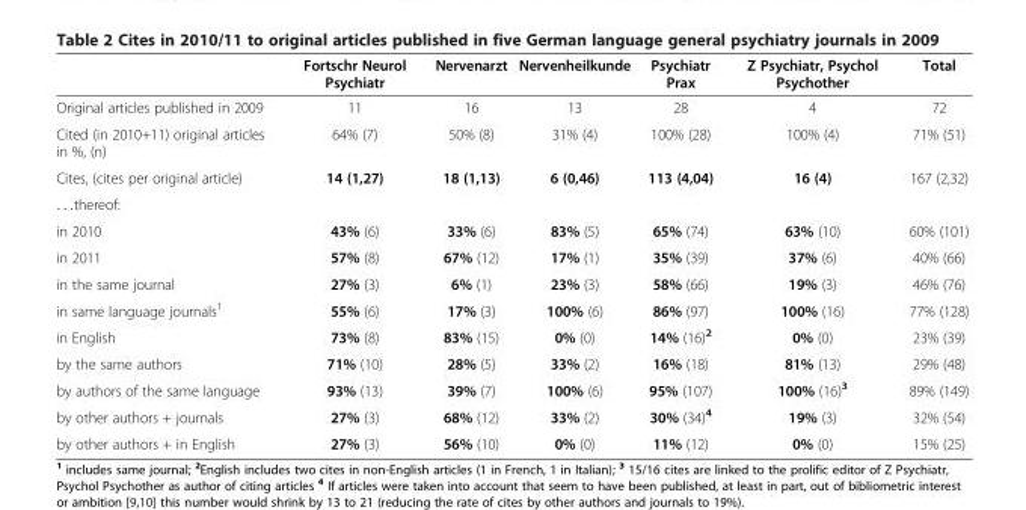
<table><thead><tr><td></td><td>Fortschr Neurol Psychiatr</td><td>Nervenarzt</td><td>Nervenheilkunde</td><td>Psychiatr Prax</td><td>Z Psychiatr, Psychol Psychother</td><td>Total</td></tr></thead><tbody><tr><td>Original articles published in 2009</td><td>11</td><td>16</td><td>13</td><td>28</td><td>4</td><td>72</td></tr><tr><td>Cited (in 2010+11) original articles in %, (n)</td><td>64% (7)</td><td>50% (8)</td><td>31% (4)</td><td>100% (28)</td><td>100% (4)</td><td>71% (51)</td></tr><tr><td>Cites, (cites per original article)</td><td>14 (1,27)</td><td>18 (1,13)</td><td>6 (0,46)</td><td>113 (4,04)</td><td>16 (4)</td><td>167 (2,32)</td></tr><tr><td colspan="7">. . .thereof:</td></tr><tr><td>in 2010</td><td>43% (6)</td><td>33% (6)</td><td>83% (5)</td><td>65% (74)</td><td>63% (10)</td><td>60% (101)</td></tr><tr><td>in 2011</td><td>57% (8)</td><td>67% (12)</td><td>17% (1)</td><td>35% (39)</td><td>37% (6)</td><td>40% (66)</td></tr><tr><td>in the same journal</td><td>27% (3)</td><td>6% (1)</td><td>23% (3)</td><td>58% (66)</td><td>19% (3)</td><td>46% (76)</td></tr><tr><td>in same language journals<sup>1</sup></td><td>55% (6)</td><td>17% (3)</td><td>100% (6)</td><td>86% (97)</td><td>100% (16)</td><td>77% (128)</td></tr><tr><td>in English</td><td>73% (8)</td><td>83% (15)</td><td>0% (0)</td><td>14% (16)<sup>2</sup></td><td>0% (0)</td><td>23% (39)</td></tr><tr><td>by the same authors</td><td>71% (10)</td><td>28% (5)</td><td>33% (2)</td><td>16% (18)</td><td>81% (13)</td><td>29% (48)</td></tr><tr><td>by authors of the same language</td><td>93% (13)</td><td>39% (7)</td><td>100% (6)</td><td>95% (107)</td><td>100% (16)<sup>3</sup></td><td>89% (149)</td></tr><tr><td>by other authors + journals</td><td>27% (3)</td><td>68% (12)</td><td>33% (2)</td><td>30% (34)<sup>4</sup></td><td>19% (3)</td><td>32% (54)</td></tr><tr><td>by other authors + in English</td><td>27% (3)</td><td>56% (10)</td><td>0% (0)</td><td>11% (12)</td><td>0% (0)</td><td>15% (25)</td></tr></tbody></table>